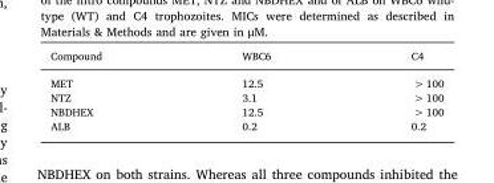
<table><thead><tr><td>Compound</td><td>WBC6</td><td>C4</td></tr></thead><tbody><tr><td>MET</td><td>12.5</td><td>&gt; 100</td></tr><tr><td>NTZ</td><td>3.1</td><td>&gt; 100</td></tr><tr><td>NBDHEX</td><td>12.5</td><td>&gt; 100</td></tr><tr><td>ALB</td><td>0.2</td><td>0.2</td></tr></tbody></table>